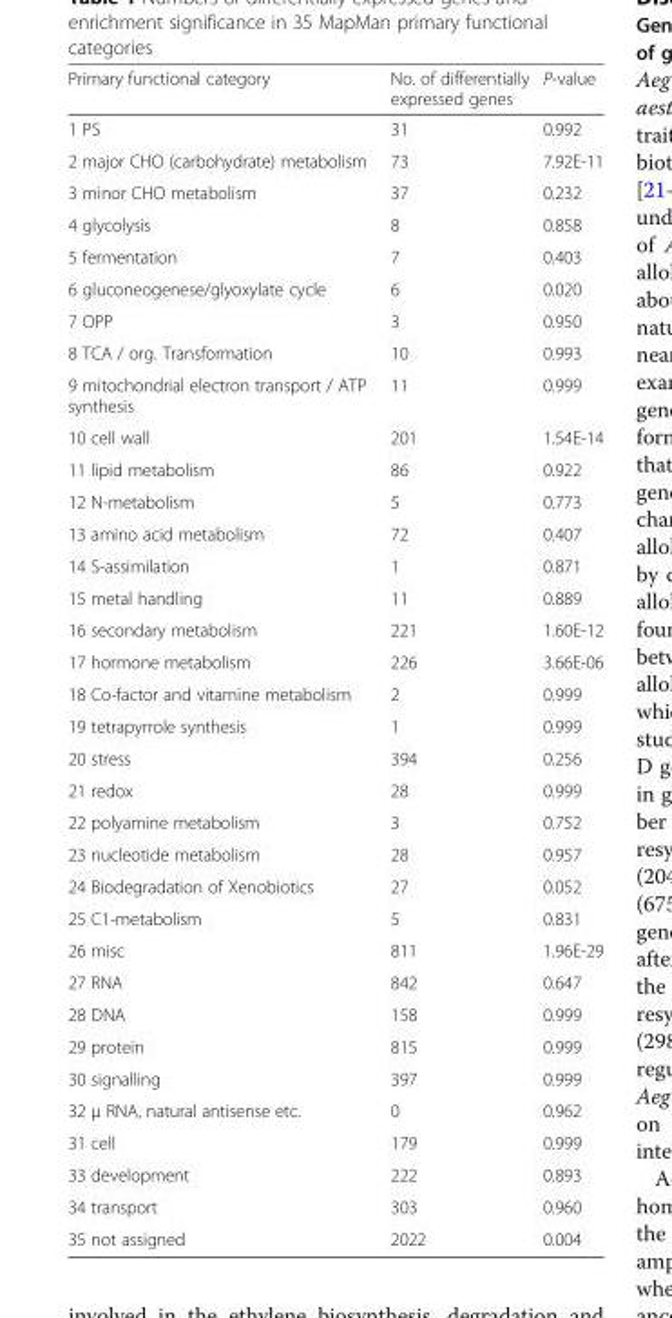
<table><thead><tr><td>Primary functional category</td><td>No. of differentially expressed genes</td><td>P-value</td></tr></thead><tbody><tr><td>1 PS</td><td>31</td><td>0.992</td></tr><tr><td>2 major CHO (carbohydrate) metabolism</td><td>73</td><td>7.92E-11</td></tr><tr><td>3 minor CHO metabolism</td><td>37</td><td>0.232</td></tr><tr><td>4 glycolysis</td><td>8</td><td>0.858</td></tr><tr><td>5 fermentation</td><td>7</td><td>0.403</td></tr><tr><td>6 gluconeogenese/glyoxylate cycle</td><td>6</td><td>0.020</td></tr><tr><td>7 OPP</td><td>3</td><td>0.950</td></tr><tr><td>8 TCA / org. Transformation</td><td>10</td><td>0.993</td></tr><tr><td>9 mitochondrial electron transport / ATP synthesis</td><td>11</td><td>0.999</td></tr><tr><td>10 cell wall</td><td>201</td><td>1.54E-14</td></tr><tr><td>11 lipid metabolism</td><td>86</td><td>0.922</td></tr><tr><td>12 N-metabolism</td><td>5</td><td>0.773</td></tr><tr><td>13 amino acid metabolism</td><td>72</td><td>0.407</td></tr><tr><td>14 S-assimilation</td><td>1</td><td>0.871</td></tr><tr><td>15 metal handling</td><td>11</td><td>0.889</td></tr><tr><td>16 secondary metabolism</td><td>221</td><td>1.60E-12</td></tr><tr><td>17 hormone metabolism</td><td>226</td><td>3.66E-06</td></tr><tr><td>18 Co-factor and vitamine metabolism</td><td>2</td><td>0.999</td></tr><tr><td>19 tetrapyrrole synthesis</td><td>1</td><td>0.999</td></tr><tr><td>20 stress</td><td>394</td><td>0.256</td></tr><tr><td>21 redox</td><td>28</td><td>0.999</td></tr><tr><td>22 polyamine metabolism</td><td>3</td><td>0.752</td></tr><tr><td>23 nucleotide metabolism</td><td>28</td><td>0.957</td></tr><tr><td>24 Biodegradation of Xenobiotics</td><td>27</td><td>0.052</td></tr><tr><td>25 C1-metabolism</td><td>5</td><td>0.831</td></tr><tr><td>26 misc</td><td>811</td><td>1.96E-29</td></tr><tr><td>27 RNA</td><td>842</td><td>0.647</td></tr><tr><td>28 DNA</td><td>158</td><td>0.999</td></tr><tr><td>29 protein</td><td>815</td><td>0.999</td></tr><tr><td>30 signalling</td><td>397</td><td>0.999</td></tr><tr><td>32 μ RNA, natural antisense etc.</td><td>0</td><td>0.962</td></tr><tr><td>31 cell</td><td>179</td><td>0.999</td></tr><tr><td>33 development</td><td>222</td><td>0.893</td></tr><tr><td>34 transport</td><td>303</td><td>0.960</td></tr><tr><td>35 not assigned</td><td>2022</td><td>0.004</td></tr></tbody></table>